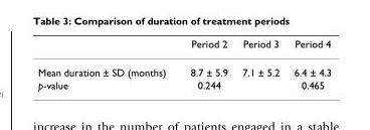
<table><thead><tr><td></td><td>Period 2</td><td>Period 3</td><td>Period 4</td></tr></thead><tbody><tr><td>Mean duration ± SD (months)</td><td>8.7 ± 5.9</td><td>7.1 ± 5.2</td><td>6.4 ± 4.3</td></tr><tr><td>p-value</td><td>0.244</td><td></td><td>0.465</td></tr></tbody></table>